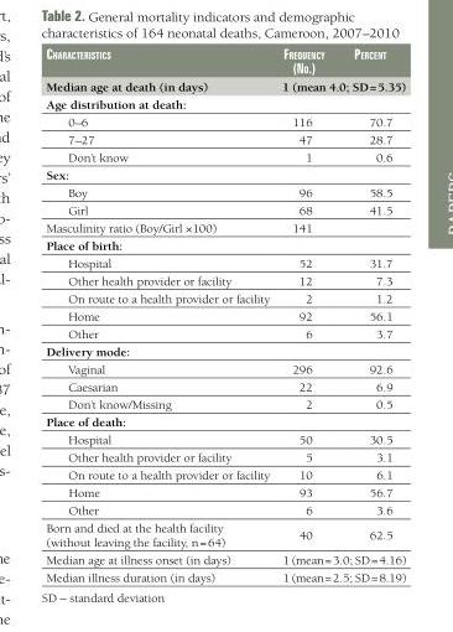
<table><thead><tr><td>CharaCteristiCs</td><td>FrequenCy (no.)</td><td>PerCent</td></tr></thead><tbody><tr><td>Median age at death (in days)</td><td colspan="2">1 (mean 4.0; SD = 5.35)</td></tr><tr><td colspan="3">Age distribution at death:</td></tr><tr><td>0–6</td><td>116</td><td>70.7</td></tr><tr><td>7–27</td><td>47</td><td>28.7</td></tr><tr><td>Don’t know</td><td>1</td><td>0.6</td></tr><tr><td colspan="3">Sex:</td></tr><tr><td>Boy</td><td>96</td><td>58.5</td></tr><tr><td>Girl</td><td>68</td><td>41.5</td></tr><tr><td>Masculinity ratio (Boy/Girl ×100)</td><td>141</td><td></td></tr><tr><td colspan="3">Place of birth:</td></tr><tr><td>Hospital</td><td>52</td><td>31.7</td></tr><tr><td>Other health provider or facility</td><td>12</td><td>7.3</td></tr><tr><td>On route to a health provider or facility</td><td>2</td><td>1.2</td></tr><tr><td>Home</td><td>92</td><td>56.1</td></tr><tr><td>Other</td><td>6</td><td>3.7</td></tr><tr><td colspan="3">Delivery mode:</td></tr><tr><td>Vaginal</td><td>296</td><td>92.6</td></tr><tr><td>Caesarian</td><td>22</td><td>6.9</td></tr><tr><td>Don’t know/Missing</td><td>2</td><td>0.5</td></tr><tr><td colspan="3">Place of death:</td></tr><tr><td>Hospital</td><td>50</td><td>30.5</td></tr><tr><td>Other health provider or facility</td><td>5</td><td>3.1</td></tr><tr><td>On route to a health provider or facility</td><td>10</td><td>6.1</td></tr><tr><td>Home</td><td>93</td><td>56.7</td></tr><tr><td>Other</td><td>6</td><td>3.6</td></tr><tr><td>Born and died at the health facility (without leaving the facility, n = 64)</td><td>40</td><td>62.5</td></tr><tr><td>Median age at illness onset (in days)</td><td colspan="2">1 (mean = 3.0; SD = 4.16)</td></tr><tr><td>Median illness duration (in days)</td><td colspan="2">1 (mean = 2.5; SD = 8.19)</td></tr></tbody></table>